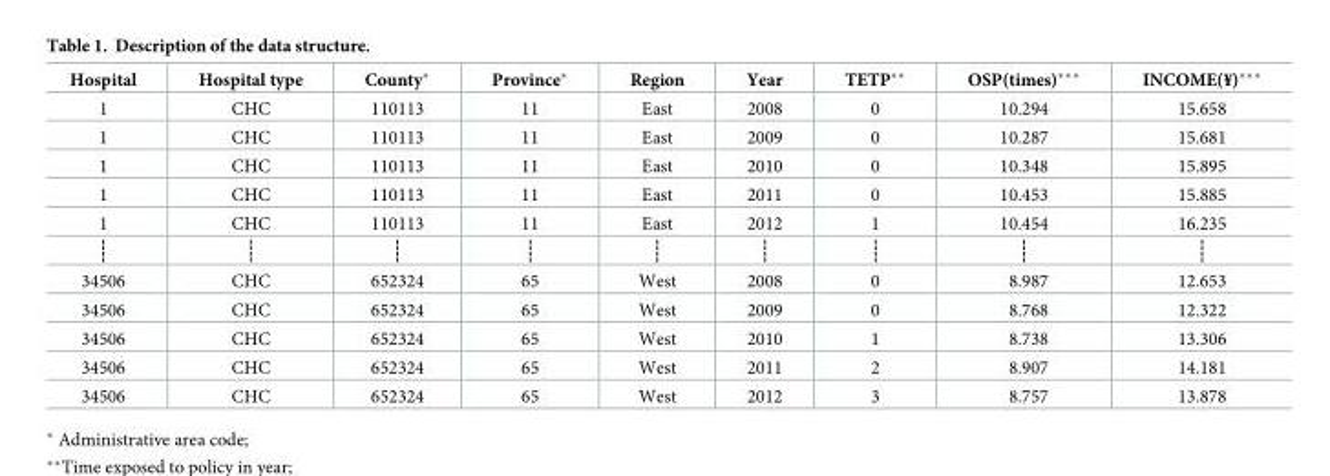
<table><thead><tr><td>Hospital</td><td>Hospital type</td><td>County*</td><td>Province*</td><td>Region</td><td>Year</td><td>TETP**</td><td>OSP(times)***</td><td>INCOME(¥)***</td></tr></thead><tbody><tr><td>1</td><td>CHC</td><td>110113</td><td>11</td><td>East</td><td>2008</td><td>0</td><td>10.294</td><td>15.658</td></tr><tr><td>1</td><td>CHC</td><td>110113</td><td>11</td><td>East</td><td>2009</td><td>0</td><td>10.287</td><td>15.681</td></tr><tr><td>1</td><td>CHC</td><td>110113</td><td>11</td><td>East</td><td>2010</td><td>0</td><td>10.348</td><td>15.895</td></tr><tr><td>1</td><td>CHC</td><td>110113</td><td>11</td><td>East</td><td>2011</td><td>0</td><td>10.453</td><td>15.885</td></tr><tr><td>1</td><td>CHC</td><td>110113</td><td>11</td><td>East</td><td>2012</td><td>1</td><td>10.454</td><td>16.235</td></tr><tr><td>┊</td><td>┊</td><td>┊</td><td>┊</td><td>┊</td><td>┊</td><td>┊</td><td>┊</td><td>┊</td></tr><tr><td>34506</td><td>CHC</td><td>652324</td><td>65</td><td>West</td><td>2008</td><td>0</td><td>8.987</td><td>12.653</td></tr><tr><td>34506</td><td>CHC</td><td>652324</td><td>65</td><td>West</td><td>2009</td><td>0</td><td>8.768</td><td>12.322</td></tr><tr><td>34506</td><td>CHC</td><td>652324</td><td>65</td><td>West</td><td>2010</td><td>1</td><td>8.738</td><td>13.306</td></tr><tr><td>34506</td><td>CHC</td><td>652324</td><td>65</td><td>West</td><td>2011</td><td>2</td><td>8.907</td><td>14.181</td></tr><tr><td>34506</td><td>CHC</td><td>652324</td><td>65</td><td>West</td><td>2012</td><td>3</td><td>8.757</td><td>13.878</td></tr></tbody></table>